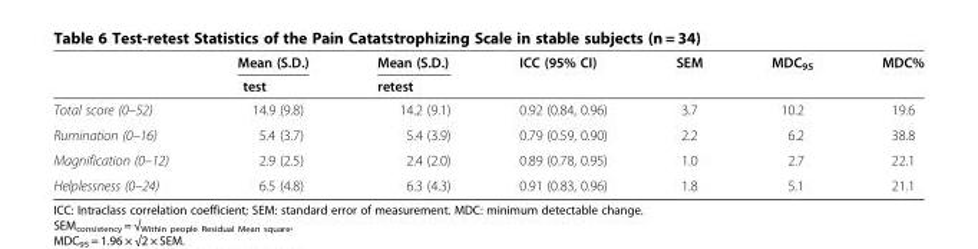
<table><thead><tr><td rowspan="2"></td><td rowspan="2">Mean (S.D.) test</td><td rowspan="2">Mean (S.D.) retest</td><td rowspan="2">ICC (95% CI)</td><td rowspan="2">SEM</td><td rowspan="2">MDC<sub>95</sub></td><td rowspan="2">MDC%</td></tr><tr></tr></thead><tbody><tr><td>Total score (0–52)</td><td>14.9 (9.8)</td><td>14.2 (9.1)</td><td>0.92 (0.84, 0.96)</td><td>3.7</td><td>10.2</td><td>19.6</td></tr><tr><td>Rumination (0–16)</td><td>5.4 (3.7)</td><td>5.4 (3.9)</td><td>0.79 (0.59, 0.90)</td><td>2.2</td><td>6.2</td><td>38.8</td></tr><tr><td>Magnification (0–12)</td><td>2.9 (2.5)</td><td>2.4 (2.0)</td><td>0.89 (0.78, 0.95)</td><td>1.0</td><td>2.7</td><td>22.1</td></tr><tr><td>Helplessness (0–24)</td><td>6.5 (4.8)</td><td>6.3 (4.3)</td><td>0.91 (0.83, 0.96)</td><td>1.8</td><td>5.1</td><td>21.1</td></tr></tbody></table>